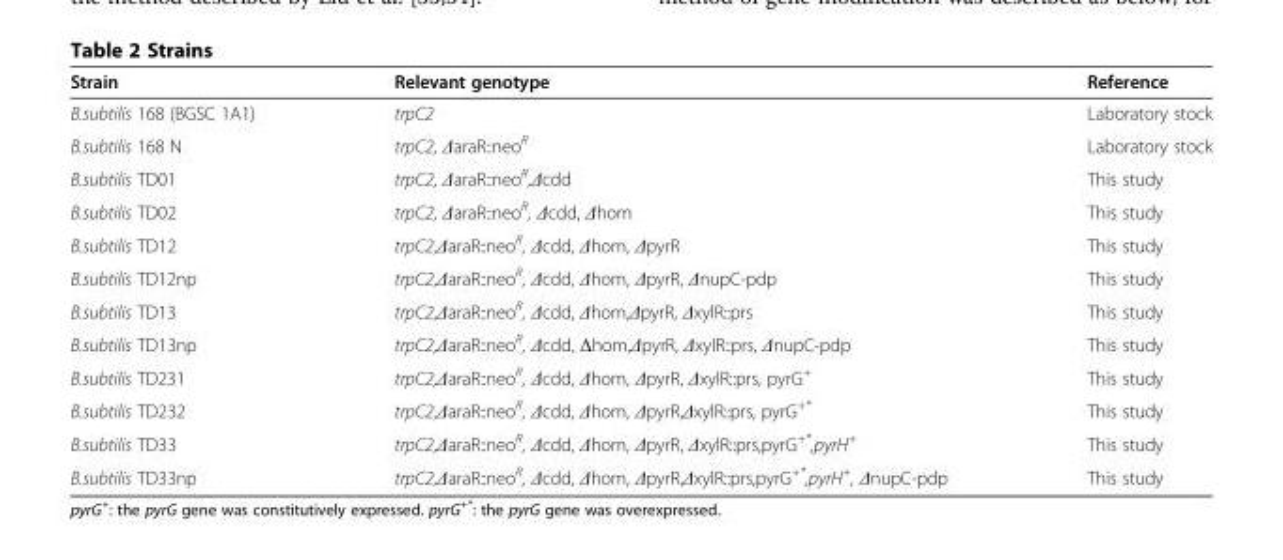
<table><thead><tr><td>Strain</td><td>Relevant genotype</td><td>Reference</td></tr></thead><tbody><tr><td>B.subtilis 168 (BGSC 1A1)</td><td>trpC2</td><td>Laboratory stock</td></tr><tr><td>B.subtilis 168 N</td><td>trpC2, ΔaraR::neo<sup>R</sup></td><td>Laboratory stock</td></tr><tr><td>B.subtilis TD01</td><td>trpC2, ΔaraR::neo<sup>R</sup>,Δcdd</td><td>This study</td></tr><tr><td>B.subtilis TD02</td><td>trpC2, ΔaraR::neo<sup>R</sup>, Δcdd, Δhom</td><td>This study</td></tr><tr><td>B.subtilis TD12</td><td>trpC2,ΔaraR::neo<sup>R</sup>, Δcdd, Δhom, ΔpyrR</td><td>This study</td></tr><tr><td>B.subtilis TD12np</td><td>trpC2,ΔaraR::neo<sup>R</sup>, Δcdd, Δhom, ΔpyrR, ΔnupC-pdp</td><td>This study</td></tr><tr><td>B.subtilis TD13</td><td>trpC2,ΔaraR::neo<sup>R</sup>, Δcdd, Δhom,ΔpyrR, ΔxylR::prs</td><td>This study</td></tr><tr><td>B.subtilis TD13np</td><td>trpC2,ΔaraR::neo<sup>R</sup>, Δcdd, Δhom,ΔpyrR, ΔxylR::prs, ΔnupC-pdp</td><td>This study</td></tr><tr><td>B.subtilis TD231</td><td>trpC2,ΔaraR::neo<sup>R</sup>, Δcdd, Δhom, ΔpyrR, ΔxylR::prs, pyrG<sup>+</sup></td><td>This study</td></tr><tr><td>B.subtilis TD232</td><td>trpC2,ΔaraR::neo<sup>R</sup>, Δcdd, Δhom, ΔpyrR,ΔxylR::prs, pyrG<sup>+*</sup></td><td>This study</td></tr><tr><td>B.subtilis TD33</td><td>trpC2,ΔaraR::neo<sup>R</sup>, Δcdd, Δhom, ΔpyrR, ΔxylR::prs,pyrG<sup>+*</sup>,pyrH<sup>+</sup></td><td>This study</td></tr><tr><td>B.subtilis TD33np</td><td>trpC2,ΔaraR::neo<sup>R</sup>, Δcdd, Δhom, ΔpyrR,ΔxylR::prs,pyrG<sup>+*</sup>,pyrH<sup>+</sup>, ΔnupC-pdp</td><td>This study</td></tr></tbody></table>